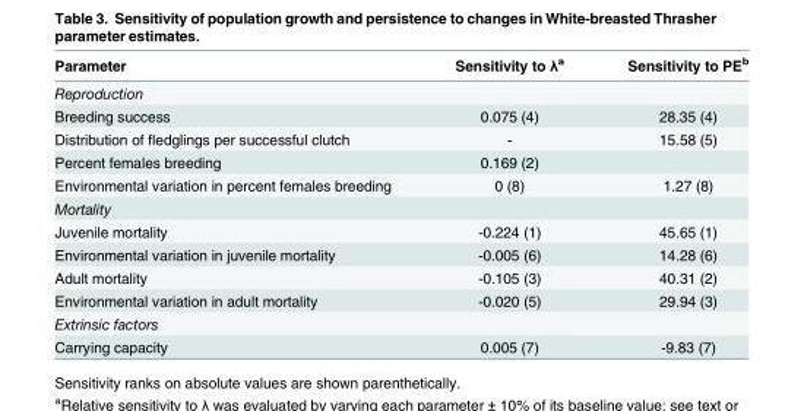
<table><thead><tr><td>Parameter</td><td>Sensitivity to λ<sup>a</sup></td><td>Sensitivity to PE<sup>b</sup></td></tr></thead><tbody><tr><td colspan="3">Reproduction</td></tr><tr><td>Breeding success</td><td>0.075 (4)</td><td>28.35 (4)</td></tr><tr><td>Distribution of fledglings per successful clutch</td><td>-</td><td>15.58 (5)</td></tr><tr><td>Percent females breeding</td><td>0.169 (2)</td><td></td></tr><tr><td>Environmental variation in percent females breeding</td><td>0 (8)</td><td>1.27 (8)</td></tr><tr><td colspan="3">Mortality</td></tr><tr><td>Juvenile mortality</td><td>-0.224 (1)</td><td>45.65 (1)</td></tr><tr><td>Environmental variation in juvenile mortality</td><td>-0.005 (6)</td><td>14.28 (6)</td></tr><tr><td>Adult mortality</td><td>-0.105 (3)</td><td>40.31 (2)</td></tr><tr><td>Environmental variation in adult mortality</td><td>-0.020 (5)</td><td>29.94 (3)</td></tr><tr><td colspan="3">Extrinsic factors</td></tr><tr><td>Carrying capacity</td><td>0.005 (7)</td><td>-9.83 (7)</td></tr></tbody></table>